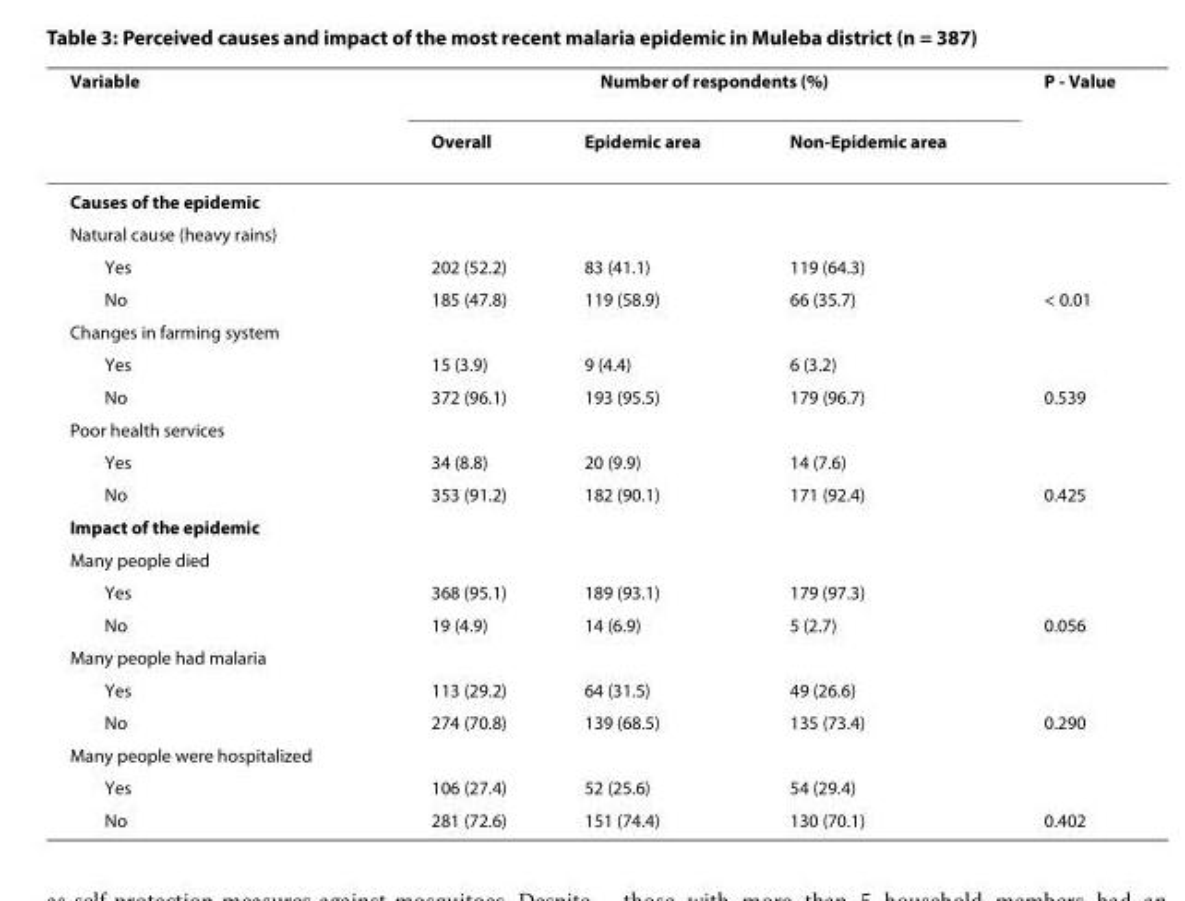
<table><thead><tr><td rowspan="2">Variable</td><td colspan="3">Number of respondents (%)</td><td rowspan="2">P - Value</td></tr><tr><td>Overall</td><td>Epidemic area</td><td>Non-Epidemic area</td></tr></thead><tbody><tr><td colspan="5">Causes of the epidemic</td></tr><tr><td colspan="5">Natural cause (heavy rains)</td></tr><tr><td>Yes</td><td>202 (52.2)</td><td>83 (41.1)</td><td>119 (64.3)</td><td></td></tr><tr><td>No</td><td>185 (47.8)</td><td>119 (58.9)</td><td>66 (35.7)</td><td>&lt; 0.01</td></tr><tr><td colspan="5">Changes in farming system</td></tr><tr><td>Yes</td><td>15 (3.9)</td><td>9 (4.4)</td><td>6 (3.2)</td><td></td></tr><tr><td>No</td><td>372 (96.1)</td><td>193 (95.5)</td><td>179 (96.7)</td><td>0.539</td></tr><tr><td colspan="5">Poor health services</td></tr><tr><td>Yes</td><td>34 (8.8)</td><td>20 (9.9)</td><td>14 (7.6)</td><td></td></tr><tr><td>No</td><td>353 (91.2)</td><td>182 (90.1)</td><td>171 (92.4)</td><td>0.425</td></tr><tr><td colspan="5">Impact of the epidemic</td></tr><tr><td colspan="5">Many people died</td></tr><tr><td>Yes</td><td>368 (95.1)</td><td>189 (93.1)</td><td>179 (97.3)</td><td></td></tr><tr><td>No</td><td>19 (4.9)</td><td>14 (6.9)</td><td>5 (2.7)</td><td>0.056</td></tr><tr><td colspan="5">Many people had malaria</td></tr><tr><td>Yes</td><td>113 (29.2)</td><td>64 (31.5)</td><td>49 (26.6)</td><td></td></tr><tr><td>No</td><td>274 (70.8)</td><td>139 (68.5)</td><td>135 (73.4)</td><td>0.290</td></tr><tr><td colspan="5">Many people were hospitalized</td></tr><tr><td>Yes</td><td>106 (27.4)</td><td>52 (25.6)</td><td>54 (29.4)</td><td></td></tr><tr><td>No</td><td>281 (72.6)</td><td>151 (74.4)</td><td>130 (70.1)</td><td>0.402</td></tr></tbody></table>